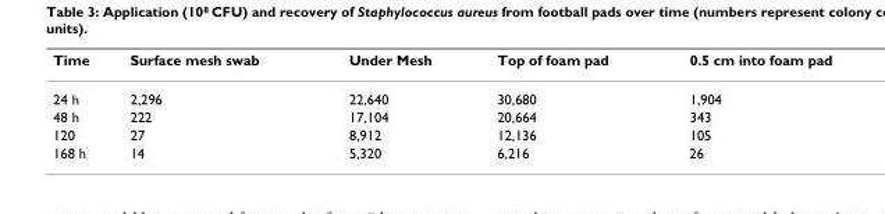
<table><thead><tr><td>Time</td><td>Surface mesh swab</td><td>Under Mesh</td><td>Top of foam pad</td><td>0.5 cm into foam pad</td></tr></thead><tbody><tr><td>24 h</td><td>2,296</td><td>22,640</td><td>30,680</td><td>1,904</td></tr><tr><td>48 h</td><td>222</td><td>17,104</td><td>20,664</td><td>343</td></tr><tr><td>120</td><td>27</td><td>8,912</td><td>12,136</td><td>105</td></tr><tr><td>168 h</td><td>14</td><td>5,320</td><td>6,216</td><td>26</td></tr></tbody></table>